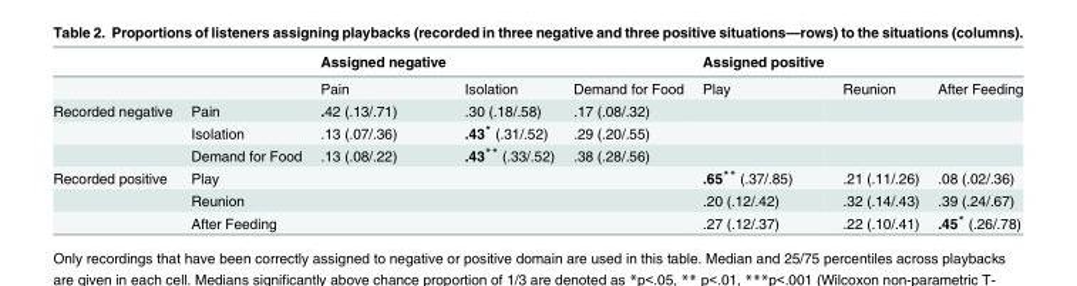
<table><thead><tr><td></td><td></td><td>Assigned negative</td><td></td><td></td><td>Assigned positive</td><td></td><td></td></tr></thead><tbody><tr><td></td><td></td><td>Pain</td><td>Isolation</td><td>Demand for Food</td><td>Play</td><td>Reunion</td><td>After Feeding</td></tr><tr><td rowspan="3">Recorded negative</td><td>Pain</td><td>.42 (.13/.71)</td><td>.30 (.18/.58)</td><td>.17 (.08/.32)</td><td></td><td></td><td></td></tr><tr><td>Isolation</td><td>.13 (.07/.36)</td><td>.43* (.31/.52)</td><td>.29 (.20/.55)</td><td></td><td></td><td></td></tr><tr><td>Demand for Food</td><td>.13 (.08/.22)</td><td>.43** (.33/.52)</td><td>.38 (.28/.56)</td><td></td><td></td><td></td></tr><tr><td rowspan="3">Recorded positive</td><td>Play</td><td></td><td></td><td></td><td>.65** (.37/.85)</td><td>.21 (.11/.26)</td><td>.08 (.02/.36)</td></tr><tr><td>Reunion</td><td></td><td></td><td></td><td>.20 (.12/.42)</td><td>.32 (.14/.43)</td><td>.39 (.24/.67)</td></tr><tr><td>After Feeding</td><td></td><td></td><td></td><td>.27 (.12/.37)</td><td>.22 (.10/.41)</td><td>.45* (.26/.78)</td></tr></tbody></table>